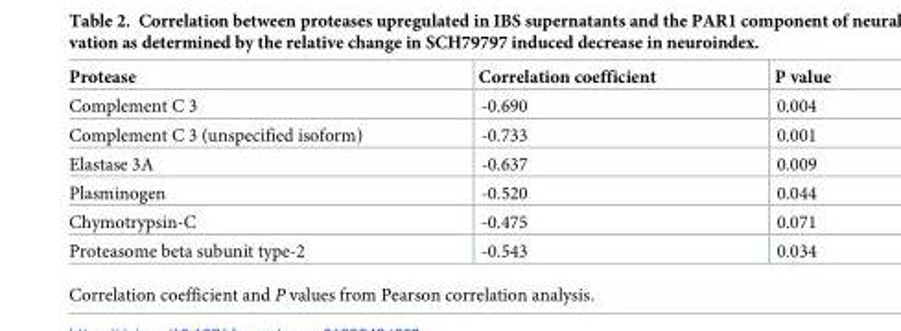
<table><thead><tr><td>Protease</td><td>Correlation coefficient</td><td>P value</td></tr></thead><tbody><tr><td>Complement C 3</td><td>-0.690</td><td>0.004</td></tr><tr><td>Complement C 3 (unspecified isoform)</td><td>-0.733</td><td>0.001</td></tr><tr><td>Elastase 3A</td><td>-0.637</td><td>0.009</td></tr><tr><td>Plasminogen</td><td>-0.520</td><td>0.044</td></tr><tr><td>Chymotrypsin-C</td><td>-0.475</td><td>0.071</td></tr><tr><td>Proteasome beta subunit type-2</td><td>-0.543</td><td>0.034</td></tr></tbody></table>